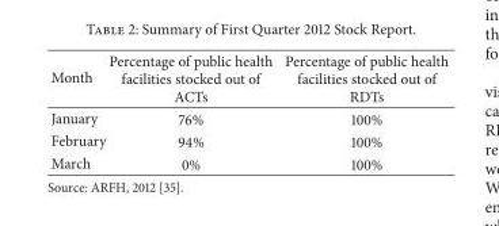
<table><thead><tr><td>Month</td><td>Percentage of public health facilities stocked out of ACTs</td><td>Percentage of public health facilities stocked out of RDTs</td></tr></thead><tbody><tr><td>January</td><td>76%</td><td>100%</td></tr><tr><td>February</td><td>94%</td><td>100%</td></tr><tr><td>March</td><td>0%</td><td>100%</td></tr></tbody></table>